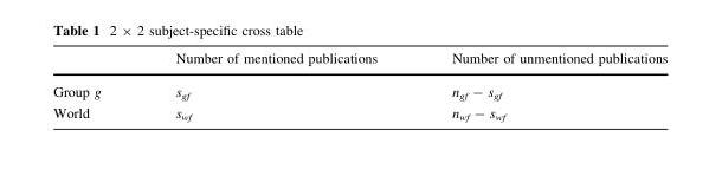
<table><thead><tr><td></td><td>Number of mentioned publications</td><td>Number of unmentioned publications</td></tr></thead><tbody><tr><td>Group g</td><td>s<sub>gf</sub></td><td>n<sub>gf</sub> - s<sub>gf</sub></td></tr><tr><td>World</td><td>s<sub>wf</sub></td><td>n<sub>wf</sub> - s<sub>wf</sub></td></tr></tbody></table>